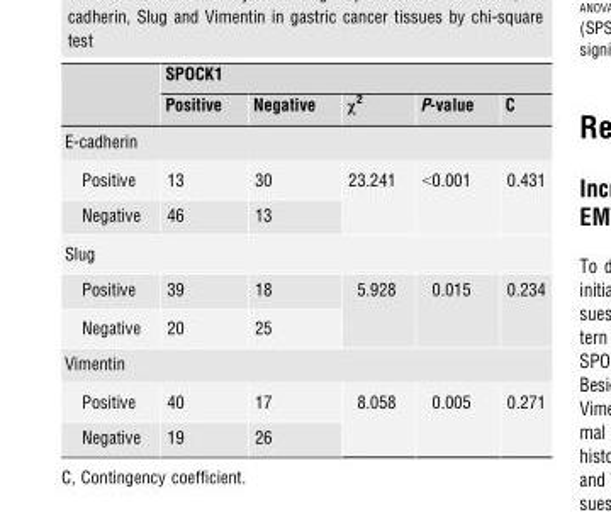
<table><thead><tr><td rowspan="2"></td><td colspan="5">SPOCK1</td></tr><tr><td>Positive</td><td>Negative</td><td>χ<sup>2</sup></td><td>P-value</td><td>C</td></tr></thead><tbody><tr><td colspan="6">E-cadherin</td></tr><tr><td>Positive</td><td>13</td><td>30</td><td rowspan="2">23.241</td><td rowspan="2">&lt;0.001</td><td rowspan="2">0.431</td></tr><tr><td>Negative</td><td>46</td><td>13</td></tr><tr><td colspan="6">Slug</td></tr><tr><td>Positive</td><td>39</td><td>18</td><td rowspan="2">5.928</td><td rowspan="2">0.015</td><td rowspan="2">0.234</td></tr><tr><td>Negative</td><td>20</td><td>25</td></tr><tr><td colspan="6">Vimentin</td></tr><tr><td>Positive</td><td>40</td><td>17</td><td rowspan="2">8.058</td><td rowspan="2">0.005</td><td rowspan="2">0.271</td></tr><tr><td>Negative</td><td>19</td><td>26</td></tr></tbody></table>